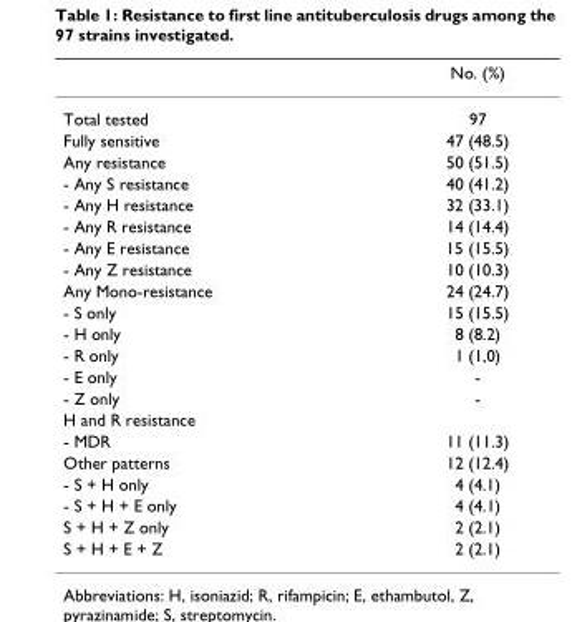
<table><thead><tr><td></td><td>No. (%)</td></tr></thead><tbody><tr><td>Total tested</td><td>97</td></tr><tr><td>Fully sensitive</td><td>47 (48.5)</td></tr><tr><td>Any resistance</td><td>50 (51.5)</td></tr><tr><td>- Any S resistance</td><td>40 (41.2)</td></tr><tr><td>- Any H resistance</td><td>32 (33.1)</td></tr><tr><td>- Any R resistance</td><td>14 (14.4)</td></tr><tr><td>- Any E resistance</td><td>15 (15.5)</td></tr><tr><td>- Any Z resistance</td><td>10 (10.3)</td></tr><tr><td>Any Mono-resistance</td><td>24 (24.7)</td></tr><tr><td>- S only</td><td>15 (15.5)</td></tr><tr><td>- H only</td><td>8 (8.2)</td></tr><tr><td>- R only</td><td>1 (1,0)</td></tr><tr><td>- E only</td><td>-</td></tr><tr><td>- Z only</td><td>-</td></tr><tr><td colspan="2">H and R resistance</td></tr><tr><td>- MDR</td><td>11 (11.3)</td></tr><tr><td>Other patterns</td><td>12 (12.4)</td></tr><tr><td>- S + H only</td><td>4 (4.1)</td></tr><tr><td>- S + H + E only</td><td>4 (4.1)</td></tr><tr><td>S + H + Z only</td><td>2 (2.1)</td></tr><tr><td>S + H + E + Z</td><td>2 (2.1)</td></tr></tbody></table>